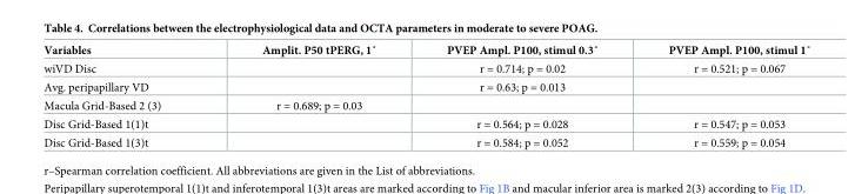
<table><thead><tr><td>Variables</td><td>Amplit. P50 tPERG, 1˚</td><td>PVEP Ampl. P100, stimul 0.3˚</td><td>PVEP Ampl. P100, stimul 1˚</td></tr></thead><tbody><tr><td>wiVD Disc</td><td></td><td>r = 0.714; p = 0.02</td><td>r = 0.521; p = 0.067</td></tr><tr><td>Avg. peripapillary VD</td><td></td><td>r = 0.63; p = 0.013</td><td></td></tr><tr><td>Macula Grid-Based 2 (3)</td><td>r = 0.689; p = 0.03</td><td></td><td></td></tr><tr><td>Disc Grid-Based 1(1)t</td><td></td><td>r = 0.564; p = 0.028</td><td>r = 0.547; p = 0.053</td></tr><tr><td>Disc Grid-Based 1(3)t</td><td></td><td>r = 0.584; p = 0.052</td><td>r = 0.559; p = 0.054</td></tr></tbody></table>